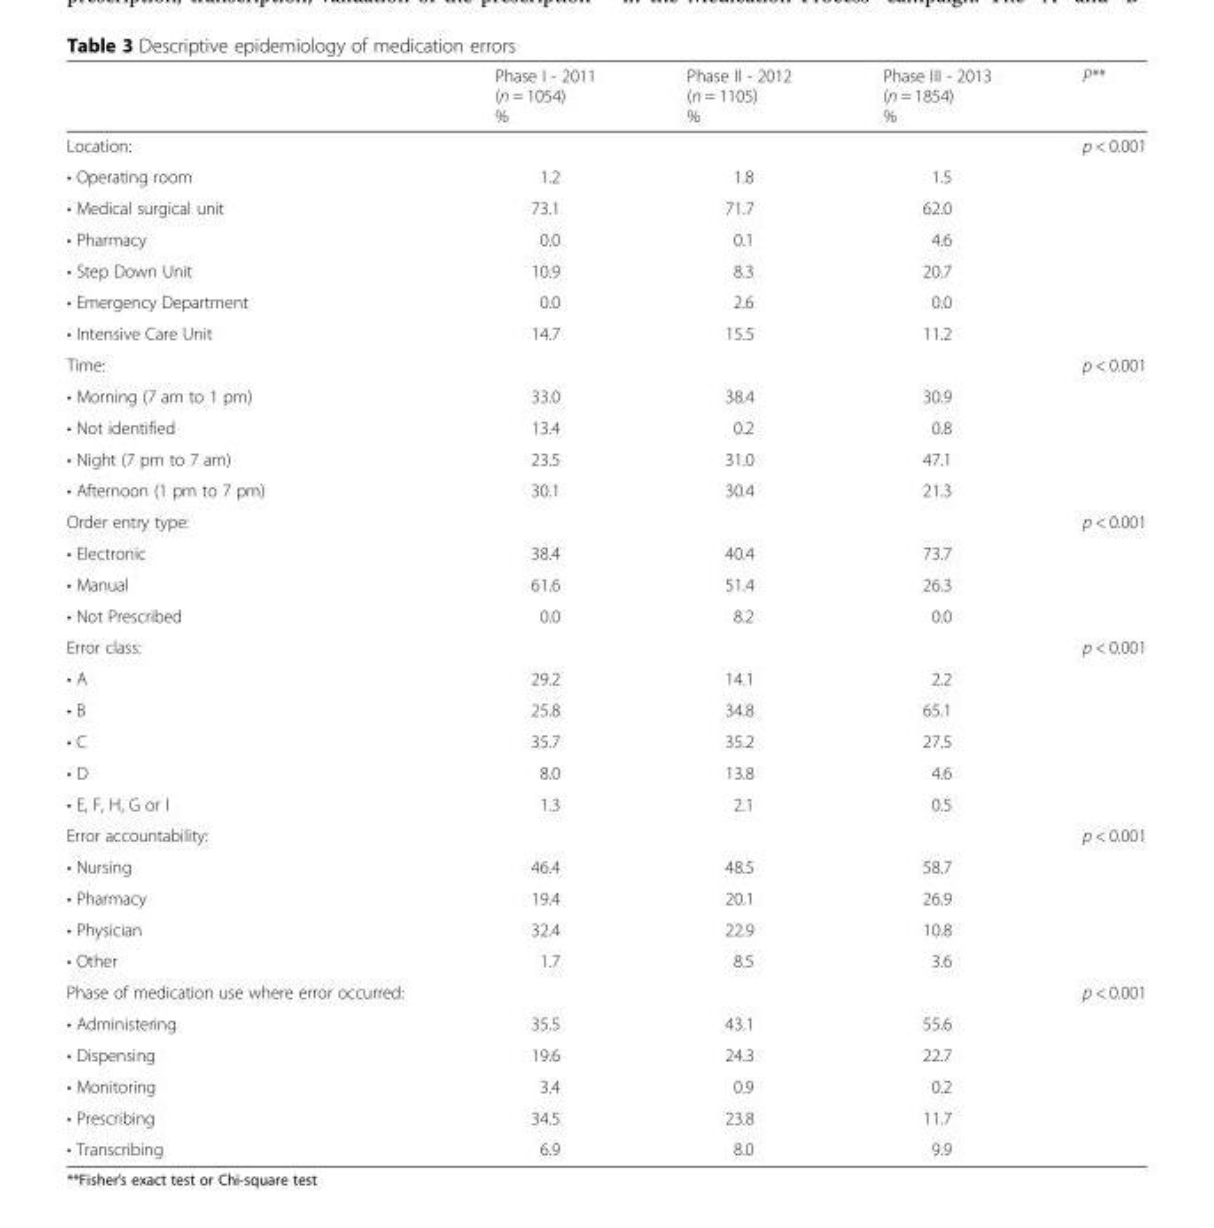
<table><thead><tr><td></td><td>Phase I - 2011 (n = 1054) %</td><td>Phase II - 2012 (n = 1105) %</td><td>Phase III - 2013 (n = 1854) %</td><td>P**</td></tr></thead><tbody><tr><td>Location:</td><td></td><td></td><td></td><td>p &lt; 0.001</td></tr><tr><td>• Operating room</td><td>1.2</td><td>1.8</td><td>1.5</td><td></td></tr><tr><td>• Medical surgical unit</td><td>73.1</td><td>71.7</td><td>62.0</td><td></td></tr><tr><td>• Pharmacy</td><td>0.0</td><td>0.1</td><td>4.6</td><td></td></tr><tr><td>• Step Down Unit</td><td>10.9</td><td>8.3</td><td>20.7</td><td></td></tr><tr><td>• Emergency Department</td><td>0.0</td><td>2.6</td><td>0.0</td><td></td></tr><tr><td>• Intensive Care Unit</td><td>14.7</td><td>15.5</td><td>11.2</td><td></td></tr><tr><td>Time:</td><td></td><td></td><td></td><td>p &lt; 0.001</td></tr><tr><td>• Morning (7 am to 1 pm)</td><td>33.0</td><td>38.4</td><td>30.9</td><td></td></tr><tr><td>• Not identified</td><td>13.4</td><td>0.2</td><td>0.8</td><td></td></tr><tr><td>• Night (7 pm to 7 am)</td><td>23.5</td><td>31.0</td><td>47.1</td><td></td></tr><tr><td>• Afternoon (1 pm to 7 pm)</td><td>30.1</td><td>30.4</td><td>21.3</td><td></td></tr><tr><td>Order entry type:</td><td></td><td></td><td></td><td>p &lt; 0.001</td></tr><tr><td>• Electronic</td><td>38.4</td><td>40.4</td><td>73.7</td><td></td></tr><tr><td>• Manual</td><td>61.6</td><td>51.4</td><td>26.3</td><td></td></tr><tr><td>• Not Prescribed</td><td>0.0</td><td>8.2</td><td>0.0</td><td></td></tr><tr><td>Error class:</td><td></td><td></td><td></td><td>p &lt; 0.001</td></tr><tr><td>• A</td><td>29.2</td><td>14.1</td><td>2.2</td><td></td></tr><tr><td>• B</td><td>25.8</td><td>34.8</td><td>65.1</td><td></td></tr><tr><td>• C</td><td>35.7</td><td>35.2</td><td>27.5</td><td></td></tr><tr><td>• D</td><td>8.0</td><td>13.8</td><td>4.6</td><td></td></tr><tr><td>• E, F, H, G or I</td><td>1.3</td><td>2.1</td><td>0.5</td><td></td></tr><tr><td>Error accountability:</td><td></td><td></td><td></td><td>p &lt; 0.001</td></tr><tr><td>• Nursing</td><td>46.4</td><td>48.5</td><td>58.7</td><td></td></tr><tr><td>• Pharmacy</td><td>19.4</td><td>20.1</td><td>26.9</td><td></td></tr><tr><td>• Physician</td><td>32.4</td><td>22.9</td><td>10.8</td><td></td></tr><tr><td>• Other</td><td>1.7</td><td>8.5</td><td>3.6</td><td></td></tr><tr><td>Phase of medication use where error occurred:</td><td></td><td></td><td></td><td>p &lt; 0.001</td></tr><tr><td>• Administering</td><td>35.5</td><td>43.1</td><td>55.6</td><td></td></tr><tr><td>• Dispensing</td><td>19.6</td><td>24.3</td><td>22.7</td><td></td></tr><tr><td>• Monitoring</td><td>3.4</td><td>0.9</td><td>0.2</td><td></td></tr><tr><td>• Prescribing</td><td>34.5</td><td>23.8</td><td>11.7</td><td></td></tr><tr><td>• Transcribing</td><td>6.9</td><td>8.0</td><td>9.9</td><td></td></tr></tbody></table>